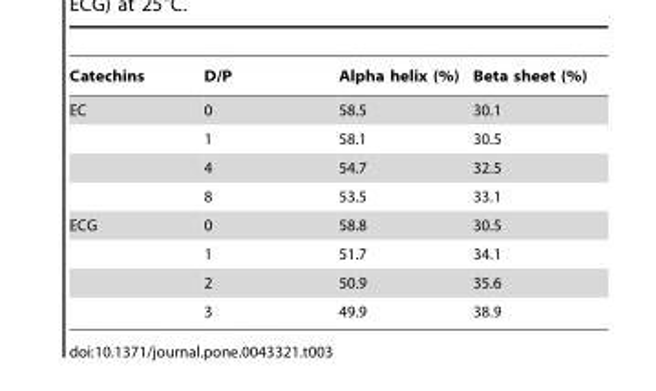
<table><thead><tr><td>Catechins</td><td>D/P</td><td>Alpha helix (%)</td><td>Beta sheet (%)</td></tr></thead><tbody><tr><td rowspan="4">EC</td><td>0</td><td>58.5</td><td>30.1</td></tr><tr><td>1</td><td>58.1</td><td>30.5</td></tr><tr><td>4</td><td>54.7</td><td>32.5</td></tr><tr><td>8</td><td>53.5</td><td>33.1</td></tr><tr><td rowspan="4">ECG</td><td>0</td><td>58.8</td><td>30.5</td></tr><tr><td>1</td><td>51.7</td><td>34.1</td></tr><tr><td>2</td><td>50.9</td><td>35.6</td></tr><tr><td>3</td><td>49.9</td><td>38.9</td></tr></tbody></table>